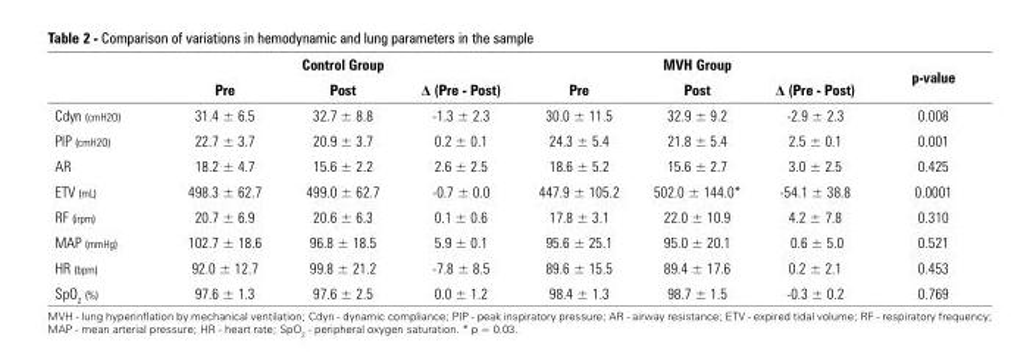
<table><thead><tr><td rowspan="2"></td><td colspan="3">Control Group</td><td colspan="3">MVH Group</td><td rowspan="2">p-value</td></tr><tr><td>Pre</td><td>Post</td><td>Δ (Pre - Post)</td><td>Pre</td><td>Post</td><td>Δ (Pre - Post)</td></tr></thead><tbody><tr><td>Cdyn (cmH<sub>2</sub>O)</td><td>31.4 ± 6.5</td><td>32.7 ± 8.8</td><td>-1.3 ± 2.3</td><td>30.0 ± 11.5</td><td>32.9 ± 9.2</td><td>-2.9 ± 2.3</td><td>0.008</td></tr><tr><td>PIP (cmH<sub>2</sub>O)</td><td>22.7 ± 3.7</td><td>20.9 ± 3.7</td><td>0.2 ± 0.1</td><td>24.3 ± 5.4</td><td>21.8 ± 5.4</td><td>2.5 ± 0.1</td><td>0.001</td></tr><tr><td>AR</td><td>18.2 ± 4.7</td><td>15.6 ± 2.2</td><td>2.6 ± 2.5</td><td>18.6 ± 5.2</td><td>15.6 ± 2.7</td><td>3.0 ± 2.5</td><td>0.425</td></tr><tr><td>ETV (mL)</td><td>498.3 ± 62.7</td><td>499.0 ± 62.7</td><td>-0.7 ± 0.0</td><td>447.9 ± 105.2</td><td>502.0 ± 144.0*</td><td>-54.1 ± 38.8</td><td>0.0001</td></tr><tr><td>RF (irpm)</td><td>20.7 ± 6.9</td><td>20.6 ± 6.3</td><td>0.1 ± 0.6</td><td>17.8 ± 3.1</td><td>22.0 ± 10.9</td><td>4.2 ± 7.8</td><td>0.310</td></tr><tr><td>MAP (mmHg)</td><td>102.7 ± 18.6</td><td>96.8 ± 18.5</td><td>5.9 ± 0.1</td><td>95.6 ± 25.1</td><td>95.0 ± 20.1</td><td>0.6 ± 5.0</td><td>0.521</td></tr><tr><td>HR (bpm)</td><td>92.0 ± 12.7</td><td>99.8 ± 21.2</td><td>-7.8 ± 8.5</td><td>89.6 ± 15.5</td><td>89.4 ± 17.6</td><td>0.2 ± 2.1</td><td>0.453</td></tr><tr><td>SpO<sub>2</sub> (%)</td><td>97.6 ± 1.3</td><td>97.6 ± 2.5</td><td>0.0 ± 1.2</td><td>98.4 ± 1.3</td><td>98.7 ± 1.5</td><td>-0.3 ± 0.2</td><td>0.769</td></tr></tbody></table>